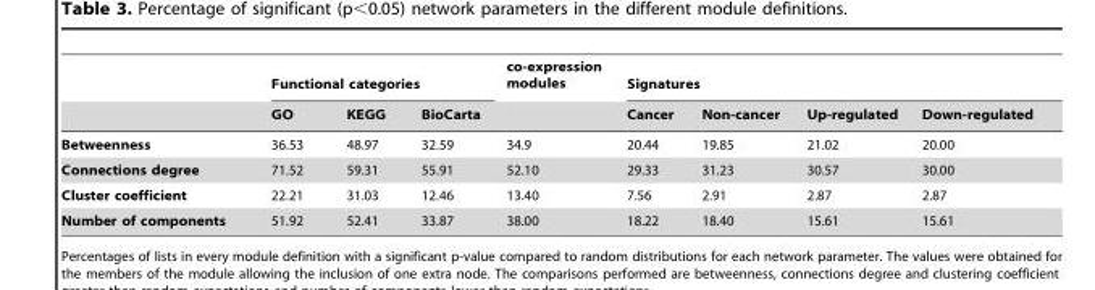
<table><thead><tr><td rowspan="2"></td><td colspan="3">Functional categories</td><td rowspan="2">co-expression modules</td><td colspan="4">Signatures</td></tr><tr><td>GO</td><td>KEGG</td><td>BioCarta</td><td>Cancer</td><td>Non-cancer</td><td>Up-regulated</td><td>Down-regulated</td></tr></thead><tbody><tr><td>Betweenness</td><td>36.53</td><td>48.97</td><td>32.59</td><td>34.9</td><td>20.44</td><td>19.85</td><td>21.02</td><td>20.00</td></tr><tr><td>Connections degree</td><td>71.52</td><td>59.31</td><td>55.91</td><td>52.10</td><td>29.33</td><td>31.23</td><td>30.57</td><td>30.00</td></tr><tr><td>Cluster coefficient</td><td>22.21</td><td>31.03</td><td>12.46</td><td>13.40</td><td>7.56</td><td>2.91</td><td>2.87</td><td>2.87</td></tr><tr><td>Number of components</td><td>51.92</td><td>52.41</td><td>33.87</td><td>38.00</td><td>18.22</td><td>18.40</td><td>15.61</td><td>15.61</td></tr></tbody></table>